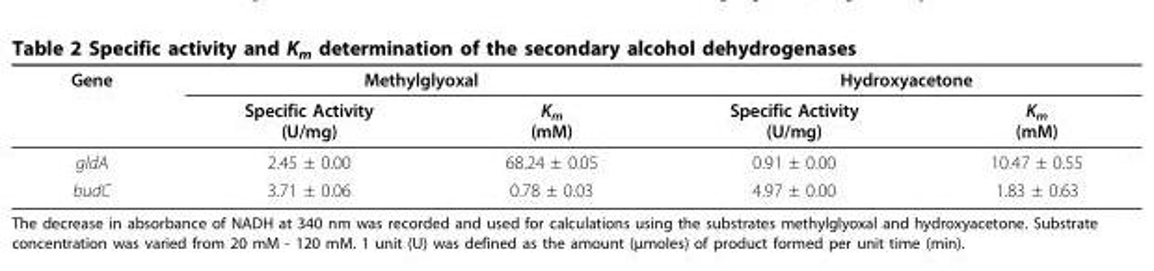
<table><thead><tr><td rowspan="2">Gene</td><td colspan="2">Methylglyoxal</td><td colspan="2">Hydroxyacetone</td></tr><tr><td>Specific Activity (U/mg)</td><td>K<sub>m</sub> (mM)</td><td>Specific Activity (U/mg)</td><td>K<sub>m</sub> (mM)</td></tr></thead><tbody><tr><td>gldA</td><td>2.45 ± 0.00</td><td>68.24 ± 0.05</td><td>0.91 ± 0.00</td><td>10.47 ± 0.55</td></tr><tr><td>budC</td><td>3.71 ± 0.06</td><td>0.78 ± 0.03</td><td>4.97 ± 0.00</td><td>1.83 ± 0.63</td></tr></tbody></table>